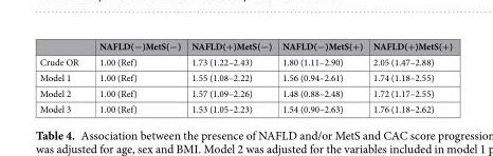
<table><thead><tr><td></td><td>NAFLD(−)MetS(−)</td><td>NAFLD(+)MetS(−)</td><td>NAFLD(−)MetS(+)</td><td>NAFLD(+)MetS(+)</td></tr></thead><tbody><tr><td>Crude OR</td><td>1.00 (Ref)</td><td>1.73 (1.22–2.43)</td><td>1.80 (1.11–2.90)</td><td>2.05 (1.47–2.88)</td></tr><tr><td>Model 1</td><td>1.00 (Ref)</td><td>1.55 (1.08–2.22)</td><td>1.56 (0.94–2.61)</td><td>1.74 (1.18–2.55)</td></tr><tr><td>Model 2</td><td>1.00 (Ref)</td><td>1.57 (1.09–2.26)</td><td>1.48 (0.88–2.48)</td><td>1.72 (1.17–2.55)</td></tr><tr><td>Model 3</td><td>1.00 (Ref)</td><td>1.53 (1.05–2.23)</td><td>1.54 (0.90–2.63)</td><td>1.76 (1.18–2.62)</td></tr></tbody></table>